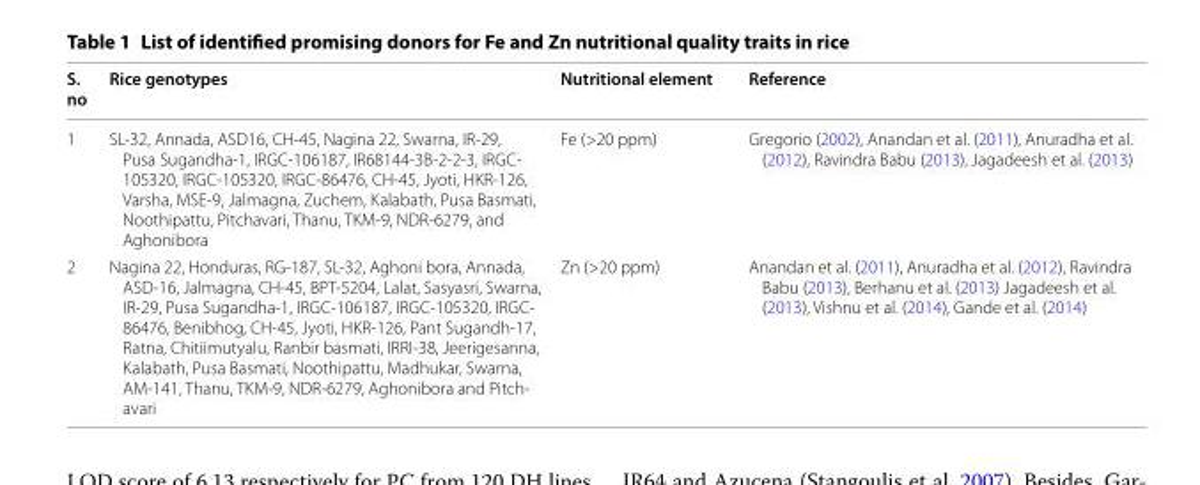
<table><thead><tr><td>S. no</td><td>Rice genotypes</td><td>Nutritional element</td><td>Reference</td></tr></thead><tbody><tr><td>1</td><td>SL-32, Annada, ASD16, CH-45, Nagina 22, Swarna, IR-29, Pusa Sugandha-1, IRGC-106187, IR68144-3B-2-2-3, IRGC- 105320, IRGC-105320, IRGC-86476, CH-45, Jyoti, HKR-126, Varsha, MSE-9, Jalmagna, Zuchem, Kalabath, Pusa Basmati, Noothipattu, Pitchavari, Thanu, TKM-9, NDR-6279, and Aghonibora</td><td>Fe (&gt;20 ppm)</td><td>Gregorio (2002), Anandan et al. (2011), Anuradha et al. (2012), Ravindra Babu (2013), Jagadeesh et al. (2013)</td></tr><tr><td>2</td><td>Nagina 22, Honduras, RG-187, SL-32, Aghoni bora, Annada, ASD-16, Jalmagna, CH-45, BPT-5204, Lalat, Sasyasri, Swarna, IR-29, Pusa Sugandha-1, IRGC-106187, IRGC-105320, IRGC- 86476, Benibhog, CH-45, Jyoti, HKR-126, Pant Sugandh-17, Ratna, Chitiimutyalu, Ranbir basmati, IRRI-38, Jeerigesanna, Kalabath, Pusa Basmati, Noothipattu, Madhukar, Swarna, AM-141, Thanu, TKM-9, NDR-6279, Aghonibora and Pitch- avari</td><td>Zn (&gt;20 ppm)</td><td>Anandan et al. (2011), Anuradha et al. (2012), Ravindra Babu (2013), Berhanu et al. (2013) Jagadeesh et al. (2013), Vishnu et al. (2014), Gande et al. (2014)</td></tr></tbody></table>